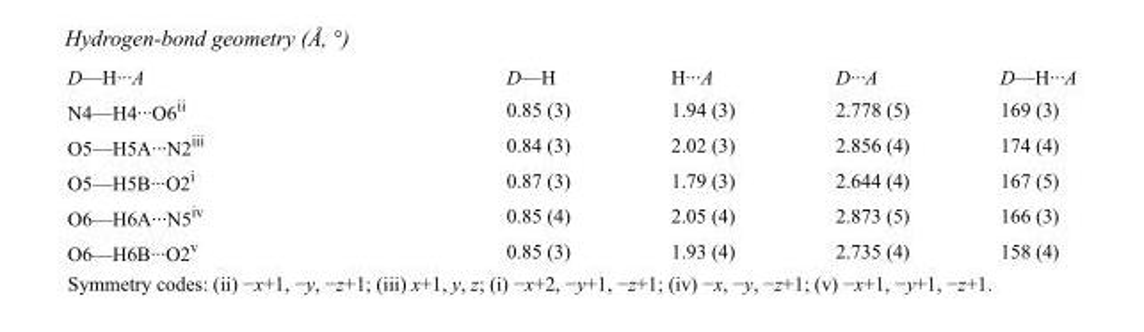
<table><tbody><tr><td>D—H···A</td><td>D—H</td><td>H···A</td><td>D···A</td><td>D—H···A</td></tr><tr><td>N4—H4···O6<sup>ii</sup></td><td>0.85 (3)</td><td>1.94 (3)</td><td>2.778 (5)</td><td>169 (3)</td></tr><tr><td>O5—H5A···N2<sup>iii</sup></td><td>0.84 (3)</td><td>2.02 (3)</td><td>2.856 (4)</td><td>174 (4)</td></tr><tr><td>O5—H5B···O2<sup>i</sup></td><td>0.87 (3)</td><td>1.79 (3)</td><td>2.644 (4)</td><td>167 (5)</td></tr><tr><td>O6—H6A···N5<sup>iv</sup></td><td>0.85 (4)</td><td>2.05 (4)</td><td>2.873 (5)</td><td>166 (3)</td></tr><tr><td>O6—H6B···O2<sup>v</sup></td><td>0.85 (3)</td><td>1.93 (4)</td><td>2.735 (4)</td><td>158 (4)</td></tr></tbody></table>